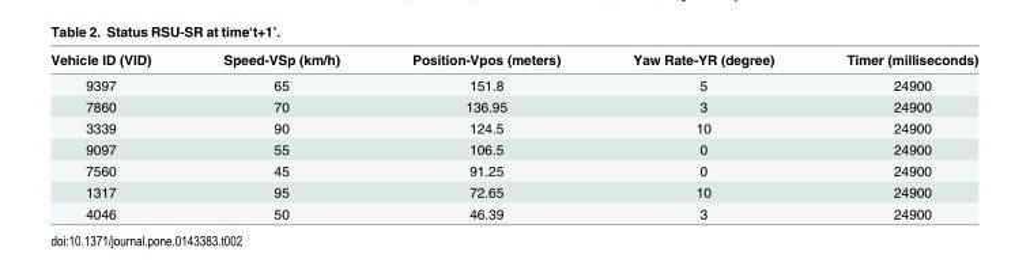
<table><thead><tr><td>Vehicle ID (VID)</td><td>Speed-VSp (km/h)</td><td>Position-Vpos (meters)</td><td>Yaw Rate-YR (degree)</td><td>Timer (milliseconds)</td></tr></thead><tbody><tr><td>9397</td><td>65</td><td>151.8</td><td>5</td><td>24900</td></tr><tr><td>7860</td><td>70</td><td>136.95</td><td>3</td><td>24900</td></tr><tr><td>3339</td><td>90</td><td>124.5</td><td>10</td><td>24900</td></tr><tr><td>9097</td><td>55</td><td>106.5</td><td>0</td><td>24900</td></tr><tr><td>7560</td><td>45</td><td>91.25</td><td>0</td><td>24900</td></tr><tr><td>1317</td><td>95</td><td>72.65</td><td>10</td><td>24900</td></tr><tr><td>4046</td><td>50</td><td>46.39</td><td>3</td><td>24900</td></tr></tbody></table>